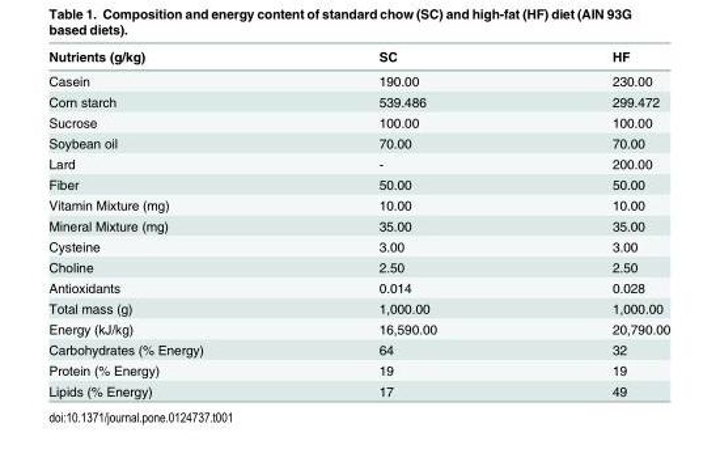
<table><thead><tr><td>Nutrients (g/kg)</td><td>SC</td><td>HF</td></tr></thead><tbody><tr><td>Casein</td><td>190.00</td><td>230.00</td></tr><tr><td>Corn starch</td><td>539.486</td><td>299.472</td></tr><tr><td>Sucrose</td><td>100.00</td><td>100.00</td></tr><tr><td>Soybean oil</td><td>70.00</td><td>70.00</td></tr><tr><td>Lard</td><td>-</td><td>200.00</td></tr><tr><td>Fiber</td><td>50.00</td><td>50.00</td></tr><tr><td>Vitamin Mixture (mg)</td><td>10.00</td><td>10.00</td></tr><tr><td>Mineral Mixture (mg)</td><td>35.00</td><td>35.00</td></tr><tr><td>Cysteine</td><td>3.00</td><td>3.00</td></tr><tr><td>Choline</td><td>2.50</td><td>2.50</td></tr><tr><td>Antioxidants</td><td>0.014</td><td>0.028</td></tr><tr><td>Total mass (g)</td><td>1,000.00</td><td>1,000.00</td></tr><tr><td>Energy (kJ/kg)</td><td>16,590.00</td><td>20,790.00</td></tr><tr><td>Carbohydrates (% Energy)</td><td>64</td><td>32</td></tr><tr><td>Protein (% Energy)</td><td>19</td><td>19</td></tr><tr><td>Lipids (% Energy)</td><td>17</td><td>49</td></tr></tbody></table>